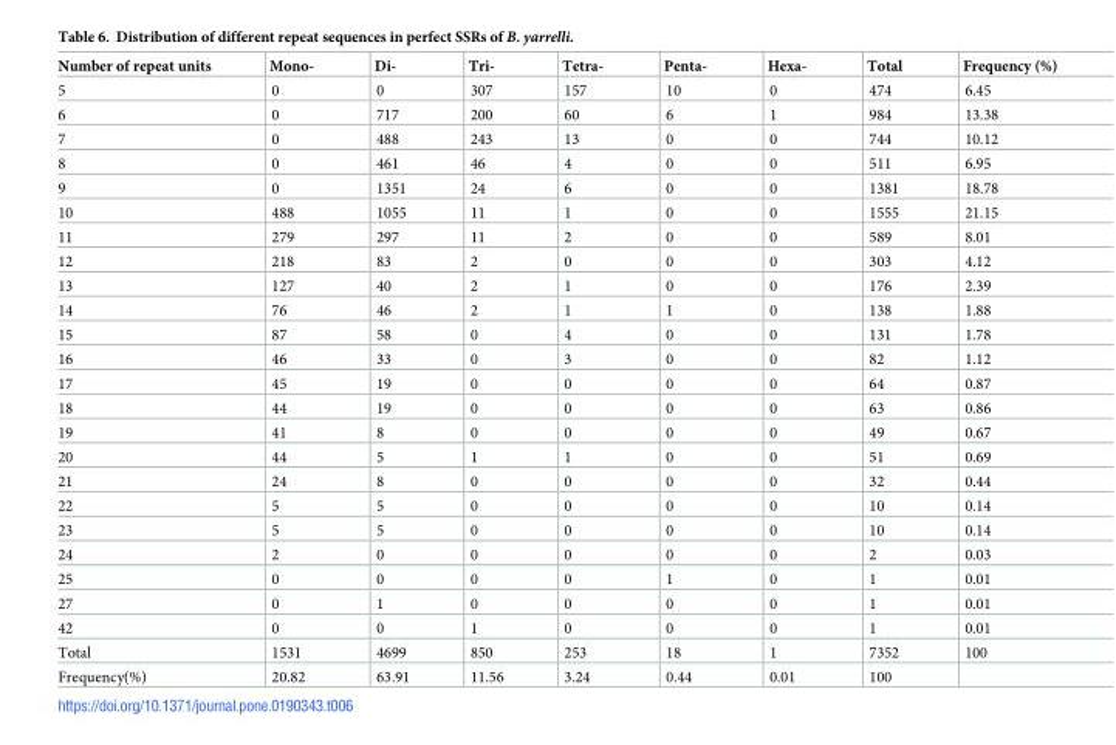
<table><thead><tr><td>Number of repeat units</td><td>Mono-</td><td>Di-</td><td>Tri-</td><td>Tetra-</td><td>Penta-</td><td>Hexa-</td><td>Total</td><td>Frequency (%)</td></tr></thead><tbody><tr><td>5</td><td>0</td><td>0</td><td>307</td><td>157</td><td>10</td><td>0</td><td>474</td><td>6.45</td></tr><tr><td>6</td><td>0</td><td>717</td><td>200</td><td>60</td><td>6</td><td>1</td><td>984</td><td>13.38</td></tr><tr><td>7</td><td>0</td><td>488</td><td>243</td><td>13</td><td>0</td><td>0</td><td>744</td><td>10.12</td></tr><tr><td>8</td><td>0</td><td>461</td><td>46</td><td>4</td><td>0</td><td>0</td><td>511</td><td>6.95</td></tr><tr><td>9</td><td>0</td><td>1351</td><td>24</td><td>6</td><td>0</td><td>0</td><td>1381</td><td>18.78</td></tr><tr><td>10</td><td>488</td><td>1055</td><td>11</td><td>1</td><td>0</td><td>0</td><td>1555</td><td>21.15</td></tr><tr><td>11</td><td>279</td><td>297</td><td>11</td><td>2</td><td>0</td><td>0</td><td>589</td><td>8.01</td></tr><tr><td>12</td><td>218</td><td>83</td><td>2</td><td>0</td><td>0</td><td>0</td><td>303</td><td>4.12</td></tr><tr><td>13</td><td>127</td><td>40</td><td>2</td><td>1</td><td>0</td><td>0</td><td>176</td><td>2.39</td></tr><tr><td>14</td><td>76</td><td>46</td><td>2</td><td>1</td><td>1</td><td>0</td><td>138</td><td>1.88</td></tr><tr><td>15</td><td>87</td><td>58</td><td>0</td><td>4</td><td>0</td><td>0</td><td>131</td><td>1.78</td></tr><tr><td>16</td><td>46</td><td>33</td><td>0</td><td>3</td><td>0</td><td>0</td><td>82</td><td>1.12</td></tr><tr><td>17</td><td>45</td><td>19</td><td>0</td><td>0</td><td>0</td><td>0</td><td>64</td><td>0.87</td></tr><tr><td>18</td><td>44</td><td>19</td><td>0</td><td>0</td><td>0</td><td>0</td><td>63</td><td>0.86</td></tr><tr><td>19</td><td>41</td><td>8</td><td>0</td><td>0</td><td>0</td><td>0</td><td>49</td><td>0.67</td></tr><tr><td>20</td><td>44</td><td>5</td><td>1</td><td>1</td><td>0</td><td>0</td><td>51</td><td>0.69</td></tr><tr><td>21</td><td>24</td><td>8</td><td>0</td><td>0</td><td>0</td><td>0</td><td>32</td><td>0.44</td></tr><tr><td>22</td><td>5</td><td>5</td><td>0</td><td>0</td><td>0</td><td>0</td><td>10</td><td>0.14</td></tr><tr><td>23</td><td>5</td><td>5</td><td>0</td><td>0</td><td>0</td><td>0</td><td>10</td><td>0.14</td></tr><tr><td>24</td><td>2</td><td>0</td><td>0</td><td>0</td><td>0</td><td>0</td><td>2</td><td>0.03</td></tr><tr><td>25</td><td>0</td><td>0</td><td>0</td><td>0</td><td>1</td><td>0</td><td>1</td><td>0.01</td></tr><tr><td>27</td><td>0</td><td>1</td><td>0</td><td>0</td><td>0</td><td>0</td><td>1</td><td>0.01</td></tr><tr><td>42</td><td>0</td><td>0</td><td>1</td><td>0</td><td>0</td><td>0</td><td>1</td><td>0.01</td></tr><tr><td>Total</td><td>1531</td><td>4699</td><td>850</td><td>253</td><td>18</td><td>1</td><td>7352</td><td>100</td></tr><tr><td>Frequency(%)</td><td>20.82</td><td>63.91</td><td>11.56</td><td>3.24</td><td>0.44</td><td>0.01</td><td>100</td><td></td></tr></tbody></table>